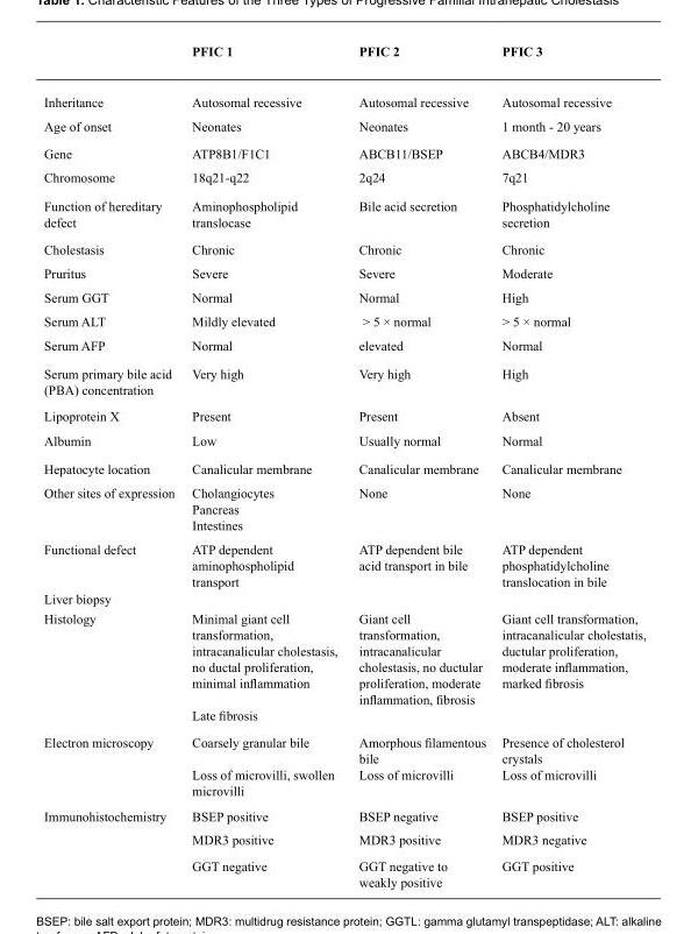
<table><thead><tr><td></td><td>PFIC 1</td><td>PFIC 2</td><td>PFIC 3</td></tr></thead><tbody><tr><td>Inheritance</td><td>Autosomal recessive</td><td>Autosomal recessive</td><td>Autosomal recessive</td></tr><tr><td>Age of onset</td><td>Neonates</td><td>Neonates</td><td>1 month - 20 years</td></tr><tr><td>Gene</td><td>ATP8B1/F1C1</td><td>ABCB11/BSEP</td><td>ABCB4/MDR3</td></tr><tr><td>Chromosome</td><td>18q21-q22</td><td>2q24</td><td>7q21</td></tr><tr><td>Function of hereditary defect</td><td>Aminophospholipid translocase</td><td>Bile acid secretion</td><td>Phosphatidylcholine secretion</td></tr><tr><td>Cholestasis</td><td>Chronic</td><td>Chronic</td><td>Chronic</td></tr><tr><td>Pruritus</td><td>Severe</td><td>Severe</td><td>Moderate</td></tr><tr><td>Serum GGT</td><td>Normal</td><td>Normal</td><td>High</td></tr><tr><td>Serum ALT</td><td>Mildly elevated</td><td>&gt; 5 × normal</td><td>&gt; 5 × normal</td></tr><tr><td>Serum AFP</td><td>Normal</td><td>elevated</td><td>Normal</td></tr><tr><td>Serum primary bile acid (PBA) concentration</td><td>Very high</td><td>Very high</td><td>High</td></tr><tr><td>Lipoprotein X</td><td>Present</td><td>Present</td><td>Absent</td></tr><tr><td>Albumin</td><td>Low</td><td>Usually normal</td><td>Normal</td></tr><tr><td>Hepatocyte location</td><td>Canalicular membrane</td><td>Canalicular membrane</td><td>Canalicular membrane</td></tr><tr><td>Other sites of expression</td><td>Cholangiocytes Pancreas Intestines</td><td>None</td><td>None</td></tr><tr><td>Functional defect</td><td>ATP dependent aminophospholipid transport</td><td>ATP dependent bile acid transport in bile</td><td>ATP dependent phosphatidylcholine translocation in bile</td></tr><tr><td colspan="4">Liver biopsy</td></tr><tr><td>Histology</td><td>Minimal giant cell transformation, intracanalicular cholestasis, no ductal proliferation, minimal inflammation Late fibrosis</td><td>Giant cell transformation, intracanalicular cholestasis, no ductular proliferation, moderate inflammation, fibrosis</td><td>Giant cell transformation, intracanalicular cholestatis, ductular proliferation, moderate inflammation, marked fibrosis</td></tr><tr><td>Electron microscopy</td><td>Coarsely granular bile Loss of microvilli, swollen microvilli</td><td>Amorphous filamentous bile Loss of microvilli</td><td>Presence of cholesterol crystals Loss of microvilli</td></tr><tr><td rowspan="3">Immunohistochemistry</td><td>BSEP positive</td><td>BSEP negative</td><td>BSEP positive</td></tr><tr><td>MDR3 positive</td><td>MDR3 positive</td><td>MDR3 negative</td></tr><tr><td>GGT negative</td><td>GGT negative to weakly positive</td><td>GGT positive</td></tr></tbody></table>